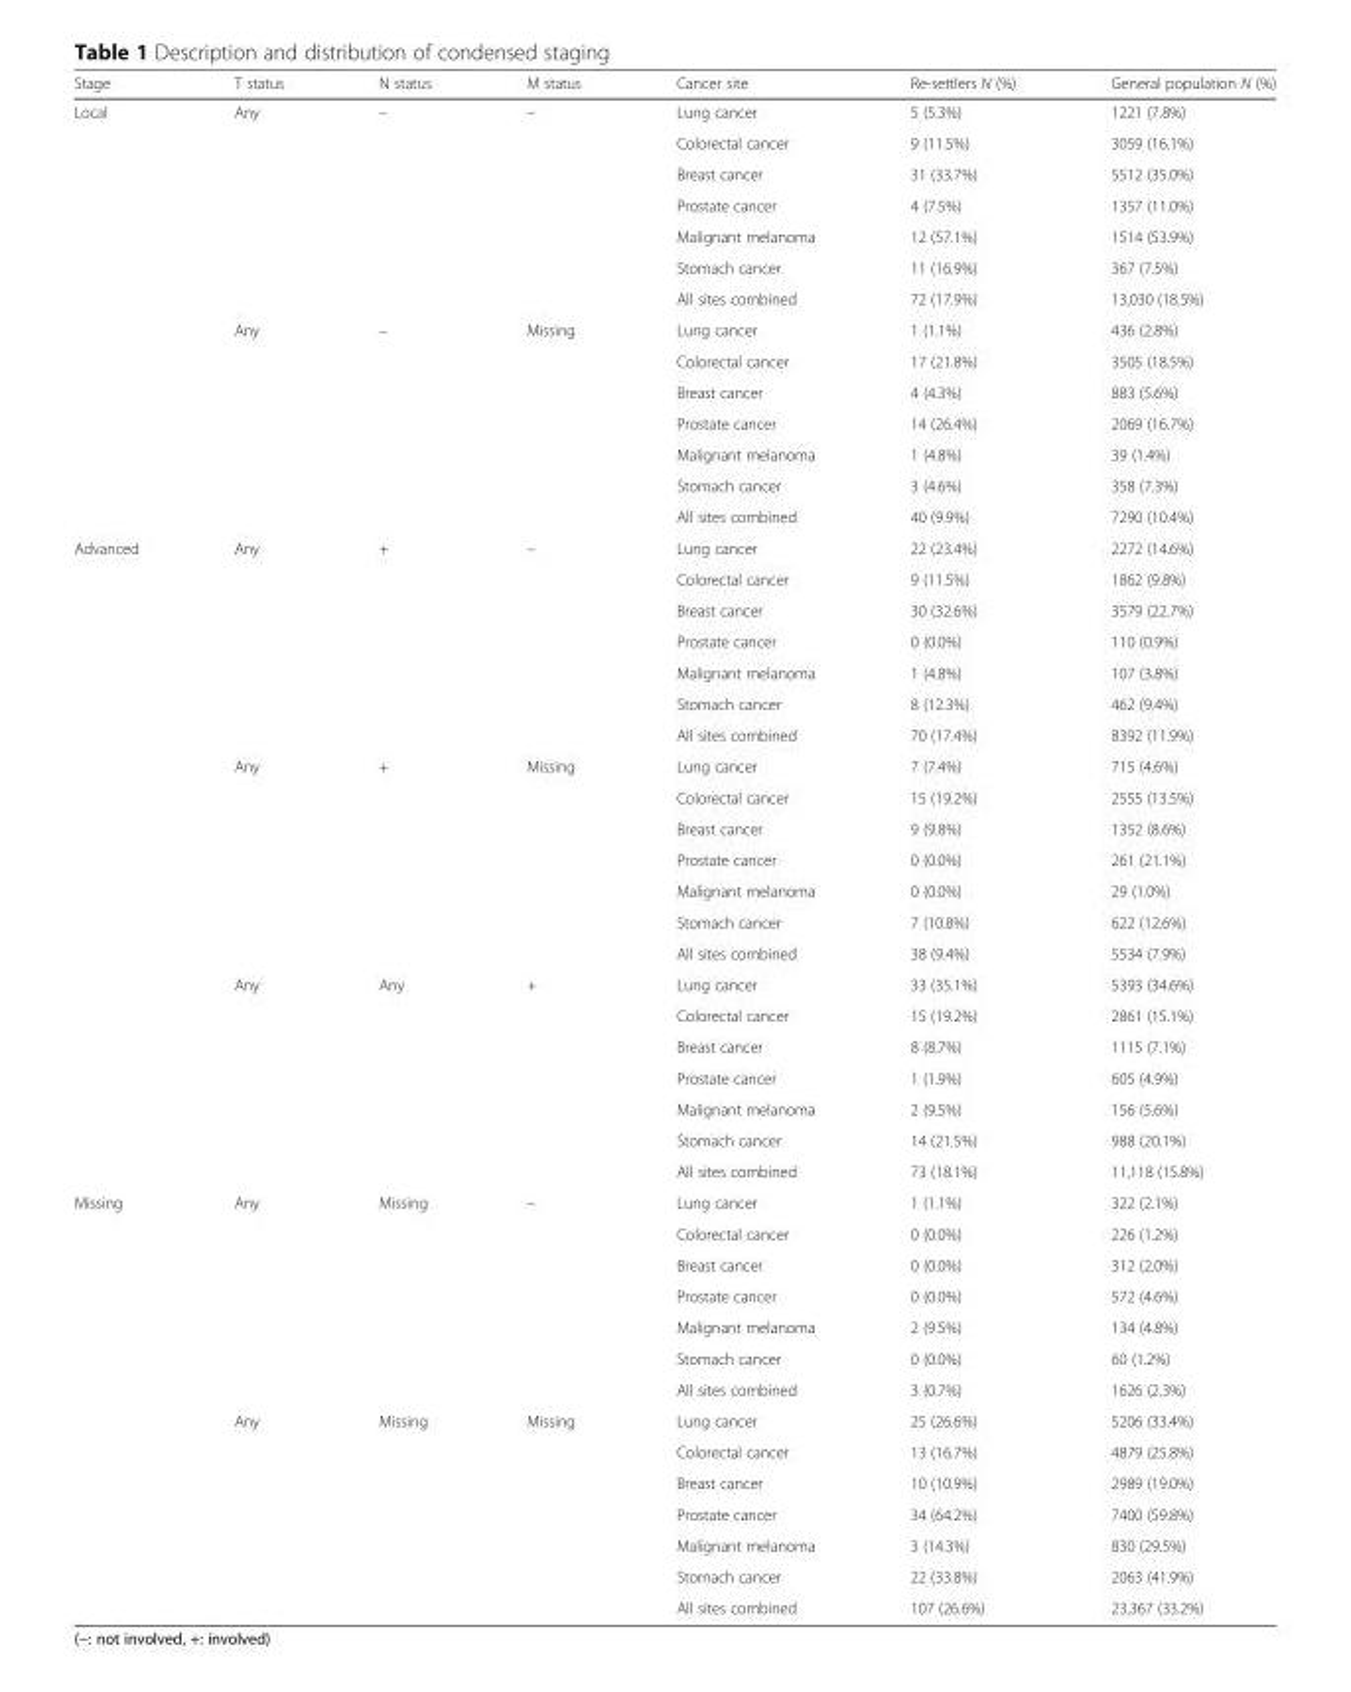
<table><thead><tr><td>Stage</td><td>T status</td><td>N status</td><td>M status</td><td>Cancer site</td><td>Re-settlers N (%)</td><td>General population N (%)</td></tr></thead><tbody><tr><td rowspan="14">Local</td><td rowspan="7">Any</td><td rowspan="7">–</td><td rowspan="7">–</td><td>Lung cancer</td><td>5 (5.3%)</td><td>1221 (7.8%)</td></tr><tr><td>Colorectal cancer</td><td>9 (11.5%)</td><td>3059 (16.1%)</td></tr><tr><td>Breast cancer</td><td>31 (33.7%)</td><td>5512 (35.0%)</td></tr><tr><td>Prostate cancer</td><td>4 (7.5%)</td><td>1357 (11.0%)</td></tr><tr><td>Malignant melanoma</td><td>12 (57.1%)</td><td>1514 (53.9%)</td></tr><tr><td>Stomach cancer</td><td>11 (16.9%)</td><td>367 (7.5%)</td></tr><tr><td>All sites combined</td><td>72 (17.9%)</td><td>13,030 (18.5%)</td></tr><tr><td rowspan="7">Any</td><td rowspan="7">–</td><td rowspan="7">Missing</td><td>Lung cancer</td><td>1 (1.1%)</td><td>436 (2.8%)</td></tr><tr><td>Colorectal cancer</td><td>17 (21.8%)</td><td>3505 (18.5%)</td></tr><tr><td>Breast cancer</td><td>4 (4.3%)</td><td>883 (5.6%)</td></tr><tr><td>Prostate cancer</td><td>14 (26.4%)</td><td>2069 (16.7%)</td></tr><tr><td>Malignant melanoma</td><td>1 (4.8%)</td><td>39 (1.4%)</td></tr><tr><td>Stomach cancer</td><td>3 (4.6%)</td><td>358 (7.3%)</td></tr><tr><td>All sites combined</td><td>40 (9.9%)</td><td>7290 (10.4%)</td></tr><tr><td rowspan="21">Advanced</td><td rowspan="7">Any</td><td rowspan="7">+</td><td rowspan="7">–</td><td>Lung cancer</td><td>22 (23.4%)</td><td>2272 (14.6%)</td></tr><tr><td>Colorectal cancer</td><td>9 (11.5%)</td><td>1862 (9.8%)</td></tr><tr><td>Breast cancer</td><td>30 (32.6%)</td><td>3579 (22.7%)</td></tr><tr><td>Prostate cancer</td><td>0 (0.0%)</td><td>110 (0.9%)</td></tr><tr><td>Malignant melanoma</td><td>1 (4.8%)</td><td>107 (3.8%)</td></tr><tr><td>Stomach cancer</td><td>8 (12.3%)</td><td>462 (9.4%)</td></tr><tr><td>All sites combined</td><td>70 (17.4%)</td><td>8392 (11.9%)</td></tr><tr><td rowspan="7">Any</td><td rowspan="7">+</td><td rowspan="7">Missing</td><td>Lung cancer</td><td>7 (7.4%)</td><td>715 (4.6%)</td></tr><tr><td>Colorectal cancer</td><td>15 (19.2%)</td><td>2555 (13.5%)</td></tr><tr><td>Breast cancer</td><td>9 (9.8%)</td><td>1352 (8.6%)</td></tr><tr><td>Prostate cancer</td><td>0 (0.0%)</td><td>261 (21.1%)</td></tr><tr><td>Malignant melanoma</td><td>0 (0.0%)</td><td>29 (1.0%)</td></tr><tr><td>Stomach cancer</td><td>7 (10.8%)</td><td>622 (12.6%)</td></tr><tr><td>All sites combined</td><td>38 (9.4%)</td><td>5534 (7.9%)</td></tr><tr><td rowspan="7">Any</td><td rowspan="7">Any</td><td rowspan="7">+</td><td>Lung cancer</td><td>33 (35.1%)</td><td>5393 (34.6%)</td></tr><tr><td>Colorectal cancer</td><td>15 (19.2%)</td><td>2861 (15.1%)</td></tr><tr><td>Breast cancer</td><td>8 (8.7%)</td><td>1115 (7.1%)</td></tr><tr><td>Prostate cancer</td><td>1 (1.9%)</td><td>605 (4.9%)</td></tr><tr><td>Malignant melanoma</td><td>2 (9.5%)</td><td>156 (5.6%)</td></tr><tr><td>Stomach cancer</td><td>14 (21.5%)</td><td>988 (20.1%)</td></tr><tr><td>All sites combined</td><td>73 (18.1%)</td><td>11,118 (15.8%)</td></tr><tr><td rowspan="14">Missing</td><td rowspan="7">Any</td><td rowspan="7">Missing</td><td rowspan="7">–</td><td>Lung cancer</td><td>1 (1.1%)</td><td>322 (2.1%)</td></tr><tr><td>Colorectal cancer</td><td>0 (0.0%)</td><td>226 (1.2%)</td></tr><tr><td>Breast cancer</td><td>0 (0.0%)</td><td>312 (2.0%)</td></tr><tr><td>Prostate cancer</td><td>0 (0.0%)</td><td>572 (4.6%)</td></tr><tr><td>Malignant melanoma</td><td>2 (9.5%)</td><td>134 (4.8%)</td></tr><tr><td>Stomach cancer</td><td>0 (0.0%)</td><td>60 (1.2%)</td></tr><tr><td>All sites combined</td><td>3 (0.7%)</td><td>1626 (2.3%)</td></tr><tr><td rowspan="7">Any</td><td rowspan="7">Missing</td><td rowspan="7">Missing</td><td>Lung cancer</td><td>25 (26.6%)</td><td>5206 (33.4%)</td></tr><tr><td>Colorectal cancer</td><td>13 (16.7%)</td><td>4879 (25.8%)</td></tr><tr><td>Breast cancer</td><td>10 (10.9%)</td><td>2989 (19.0%)</td></tr><tr><td>Prostate cancer</td><td>34 (64.2%)</td><td>7400 (59.8%)</td></tr><tr><td>Malignant melanoma</td><td>3 (14.3%)</td><td>830 (29.5%)</td></tr><tr><td>Stomach cancer</td><td>22 (33.8%)</td><td>2063 (41.9%)</td></tr><tr><td>All sites combined</td><td>107 (26.6%)</td><td>23,367 (33.2%)</td></tr></tbody></table>